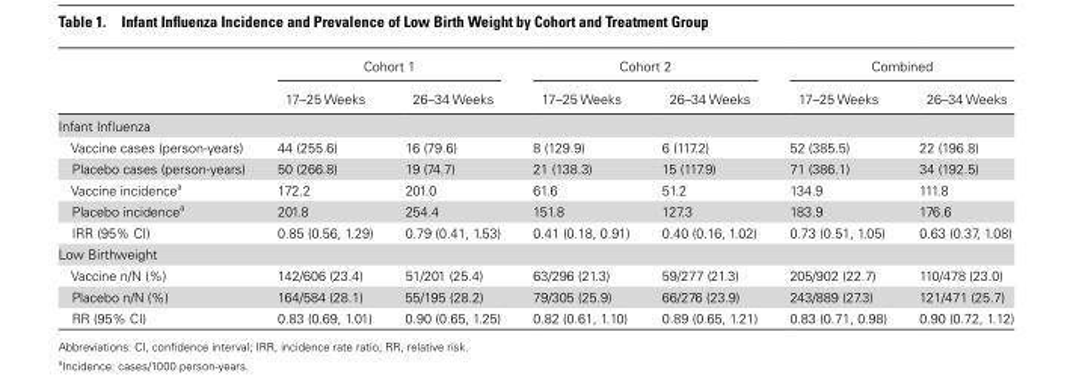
<table><thead><tr><td rowspan="2"></td><td colspan="2">Cohort 1</td><td colspan="2">Cohort 2</td><td colspan="2">Combined</td></tr><tr><td>17–25 Weeks</td><td>26–34 Weeks</td><td>17–25 Weeks</td><td>26–34 Weeks</td><td>17–25 Weeks</td><td>26–34 Weeks</td></tr></thead><tbody><tr><td colspan="7">Infant Influenza</td></tr><tr><td>Vaccine cases (person-years)</td><td>44 (255.6)</td><td>16 (79.6)</td><td>8 (129.9)</td><td>6 (117.2)</td><td>52 (385.5)</td><td>22 (196.8)</td></tr><tr><td>Placebo cases (person-years)</td><td>50 (266.8)</td><td>19 (74.7)</td><td>21 (138.3)</td><td>15 (117.9)</td><td>71 (386.1)</td><td>34 (192.5)</td></tr><tr><td>Vaccine incidence<sup>a</sup></td><td>172.2</td><td>201.0</td><td>61.6</td><td>51.2</td><td>134.9</td><td>111.8</td></tr><tr><td>Placebo incidence<sup>a</sup></td><td>201.8</td><td>254.4</td><td>151.8</td><td>127.3</td><td>183.9</td><td>176.6</td></tr><tr><td>IRR (95% CI)</td><td>0.85 (0.56, 1.29)</td><td>0.79 (0.41, 1.53)</td><td>0.41 (0.18, 0.91)</td><td>0.40 (0.16, 1.02)</td><td>0.73 (0.51, 1.05)</td><td>0.63 (0.37, 1.08)</td></tr><tr><td colspan="7">Low Birthweight</td></tr><tr><td>Vaccine n/N (%)</td><td>142/606 (23.4)</td><td>51/201 (25.4)</td><td>63/296 (21.3)</td><td>59/277 (21.3)</td><td>205/902 (22.7)</td><td>110/478 (23.0)</td></tr><tr><td>Placebo n/N (%)</td><td>164/584 (28.1)</td><td>55/195 (28.2)</td><td>79/305 (25.9)</td><td>66/276 (23.9)</td><td>243/889 (27.3)</td><td>121/471 (25.7)</td></tr><tr><td>RR (95% CI)</td><td>0.83 (0.69, 1.01)</td><td>0.90 (0.65, 1.25)</td><td>0.82 (0.61, 1.10)</td><td>0.89 (0.65, 1.21)</td><td>0.83 (0.71, 0.98)</td><td>0.90 (0.72, 1.12)</td></tr></tbody></table>